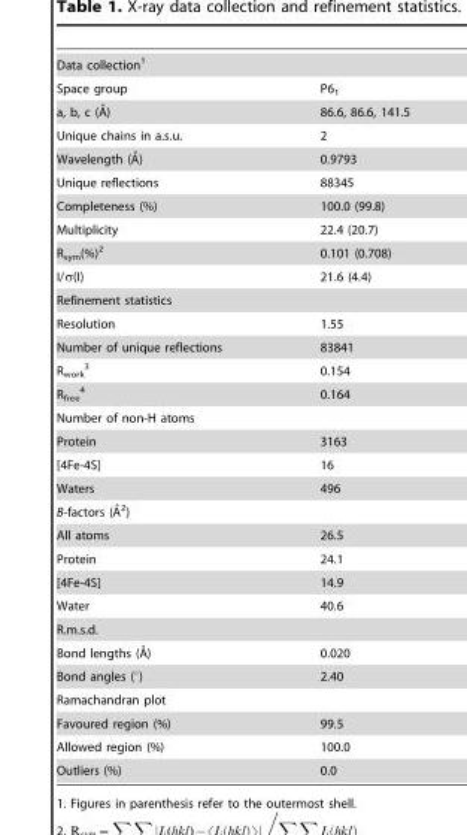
<table><tbody><tr><td colspan="2">Data collection<sup>1</sup></td></tr><tr><td>Space group</td><td>P6<sub>1</sub></td></tr><tr><td>a, b, c (A˚)</td><td>86.6, 86.6, 141.5</td></tr><tr><td>Unique chains in a.s.u.</td><td>2</td></tr><tr><td>Wavelength (A˚)</td><td>0.9793</td></tr><tr><td>Unique reflections</td><td>88345</td></tr><tr><td>Completeness (%)</td><td>100.0 (99.8)</td></tr><tr><td>Multiplicity</td><td>22.4 (20.7)</td></tr><tr><td>R<sub>sym</sub>(%)<sup>2</sup></td><td>0.101 (0.708)</td></tr><tr><td>I/σ(I)</td><td>21.6 (4.4)</td></tr><tr><td colspan="2">Refinement statistics</td></tr><tr><td>Resolution</td><td>1.55</td></tr><tr><td>Number of unique reflections</td><td>83841</td></tr><tr><td>R<sub>work</sub> 3</td><td>0.154</td></tr><tr><td>R<sub>free</sub> 4</td><td>0.164</td></tr><tr><td colspan="2">Number of non-H atoms</td></tr><tr><td>Protein</td><td>3163</td></tr><tr><td>[4Fe-4S]</td><td>16</td></tr><tr><td>Waters</td><td>496</td></tr><tr><td colspan="2">B-factors (A˚2)</td></tr><tr><td>All atoms</td><td>26.5</td></tr><tr><td>Protein</td><td>24.1</td></tr><tr><td>[4Fe-4S]</td><td>14.9</td></tr><tr><td>Water</td><td>40.6</td></tr><tr><td colspan="2">R.m.s.d.</td></tr><tr><td>Bond lengths (A˚)</td><td>0.020</td></tr><tr><td>Bond angles (°)</td><td>2.40</td></tr><tr><td colspan="2">Ramachandran plot</td></tr><tr><td>Favoured region (%)</td><td>99.5</td></tr><tr><td>Allowed region (%)</td><td>100.0</td></tr><tr><td>Outliers (%)</td><td>0.0</td></tr></tbody></table>